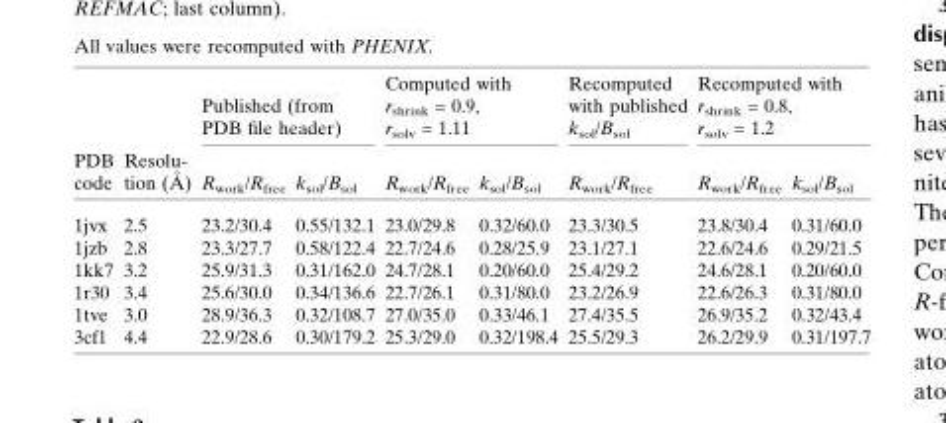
<table><thead><tr><td rowspan="2">PDB code</td><td rowspan="2">Resolu- tion (A˚ )</td><td colspan="2">Published (from PDB file header)</td><td colspan="2">Computed with r<sub>shrink</sub> = 0.9, r<sub>solv</sub> = 1.11</td><td rowspan="2">Recomputed with published k<sub>sol</sub>/B<sub>sol</sub> R<sub>work</sub>/R<sub>free</sub></td><td colspan="2">Recomputed with r<sub>shrink</sub> = 0.8, r<sub>solv</sub> = 1.2</td></tr><tr><td>R<sub>work</sub>/R<sub>free</sub></td><td>k<sub>sol</sub>/B<sub>sol</sub></td><td>R<sub>work</sub>/R<sub>free</sub></td><td>k<sub>sol</sub>/B<sub>sol</sub></td><td>R<sub>work</sub>/R<sub>free</sub></td><td>k<sub>sol</sub>/B<sub>sol</sub></td></tr></thead><tbody><tr><td>1jvx</td><td>2.5</td><td>23.2/30.4</td><td>0.55/132.1</td><td>23.0/29.8</td><td>0.32/60.0</td><td>23.3/30.5</td><td>23.8/30.4</td><td>0.31/60.0</td></tr><tr><td>1jzb</td><td>2.8</td><td>23.3/27.7</td><td>0.58/122.4</td><td>22.7/24.6</td><td>0.28/25.9</td><td>23.1/27.1</td><td>22.6/24.6</td><td>0.29/21.5</td></tr><tr><td>1kk7</td><td>3.2</td><td>25.9/31.3</td><td>0.31/162.0</td><td>24.7/28.1</td><td>0.20/60.0</td><td>25.4/29.2</td><td>24.6/28.1</td><td>0.20/60.0</td></tr><tr><td>1r30</td><td>3.4</td><td>25.6/30.0</td><td>0.34/136.6</td><td>22.7/26.1</td><td>0.31/80.0</td><td>23.2/26.9</td><td>22.6/26.3</td><td>0.31/80.0</td></tr><tr><td>1tve</td><td>3.0</td><td>28.9/36.3</td><td>0.32/108.7</td><td>27.0/35.0</td><td>0.33/46.1</td><td>27.4/35.5</td><td>26.9/35.2</td><td>0.32/43.4</td></tr><tr><td>3cf1</td><td>4.4</td><td>22.9/28.6</td><td>0.30/179.2</td><td>25.3/29.0</td><td>0.32/198.4</td><td>25.5/29.3</td><td>26.2/29.9</td><td>0.31/197.7</td></tr></tbody></table>